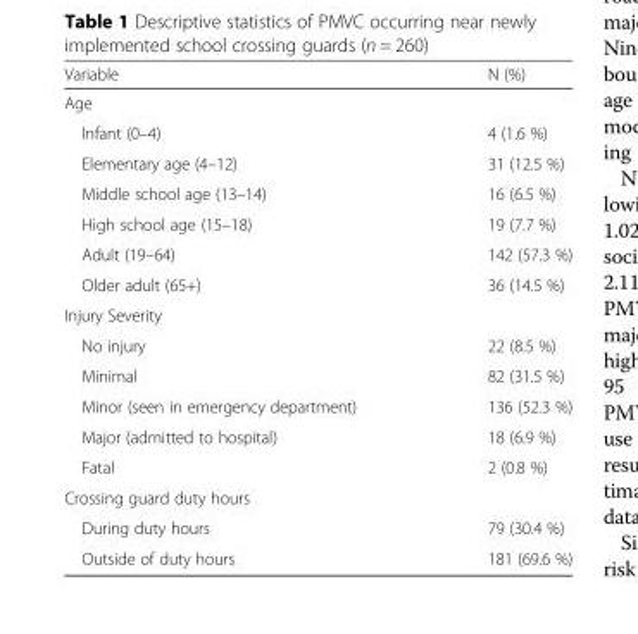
<table><thead><tr><td>Variable</td><td>N (%)</td></tr></thead><tbody><tr><td colspan="2">Age</td></tr><tr><td>Infant (0–4)</td><td>4 (1.6 %)</td></tr><tr><td>Elementary age (4–12)</td><td>31 (12.5 %)</td></tr><tr><td>Middle school age (13–14)</td><td>16 (6.5 %)</td></tr><tr><td>High school age (15–18)</td><td>19 (7.7 %)</td></tr><tr><td>Adult (19–64)</td><td>142 (57.3 %)</td></tr><tr><td>Older adult (65+)</td><td>36 (14.5 %)</td></tr><tr><td colspan="2">Injury Severity</td></tr><tr><td>No injury</td><td>22 (8.5 %)</td></tr><tr><td>Minimal</td><td>82 (31.5 %)</td></tr><tr><td>Minor (seen in emergency department)</td><td>136 (52.3 %)</td></tr><tr><td>Major (admitted to hospital)</td><td>18 (6.9 %)</td></tr><tr><td>Fatal</td><td>2 (0.8 %)</td></tr><tr><td colspan="2">Crossing guard duty hours</td></tr><tr><td>During duty hours</td><td>79 (30.4 %)</td></tr><tr><td>Outside of duty hours</td><td>181 (69.6 %)</td></tr></tbody></table>